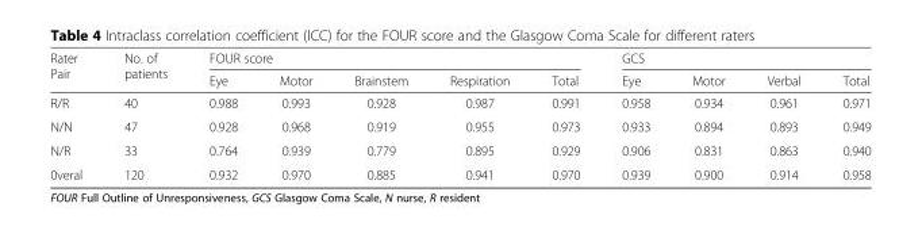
<table><thead><tr><td rowspan="2">Rater Pair</td><td rowspan="2">No. of patients</td><td colspan="5">FOUR score</td><td colspan="4">GCS</td></tr><tr><td>Eye</td><td>Motor</td><td>Brainstem</td><td>Respiration</td><td>Total</td><td>Eye</td><td>Motor</td><td>Verbal</td><td>Total</td></tr></thead><tbody><tr><td>R/R</td><td>40</td><td>0.988</td><td>0.993</td><td>0.928</td><td>0.987</td><td>0.991</td><td>0.958</td><td>0.934</td><td>0.961</td><td>0.971</td></tr><tr><td>N/N</td><td>47</td><td>0.928</td><td>0.968</td><td>0.919</td><td>0.955</td><td>0.973</td><td>0.933</td><td>0.894</td><td>0.893</td><td>0.949</td></tr><tr><td>N/R</td><td>33</td><td>0.764</td><td>0.939</td><td>0.779</td><td>0.895</td><td>0.929</td><td>0.906</td><td>0.831</td><td>0.863</td><td>0.940</td></tr><tr><td>0veral</td><td>120</td><td>0.932</td><td>0.970</td><td>0.885</td><td>0.941</td><td>0.970</td><td>0.939</td><td>0.900</td><td>0.914</td><td>0.958</td></tr></tbody></table>